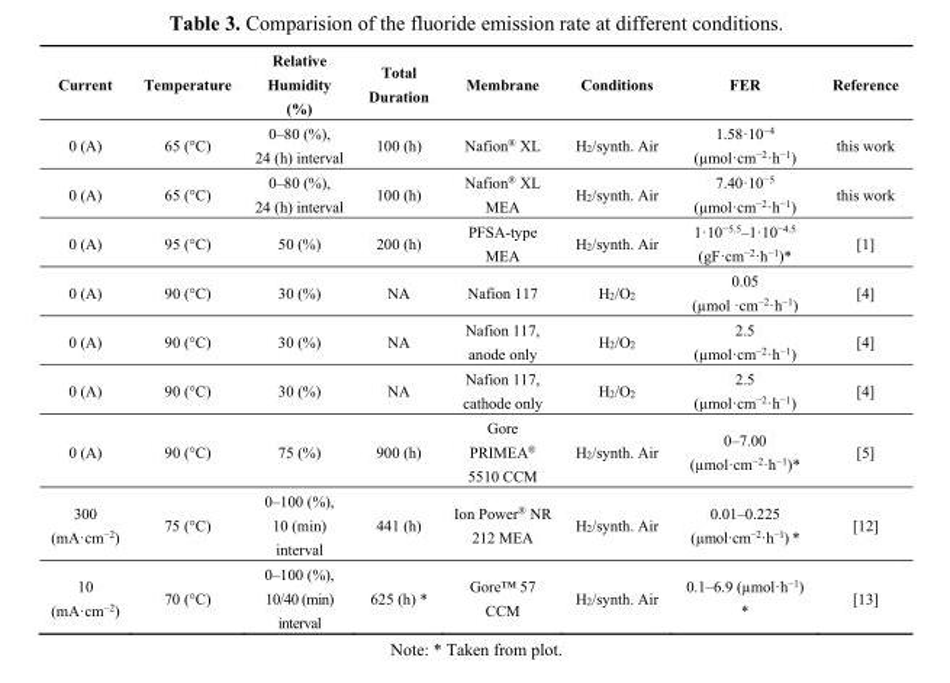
<table><thead><tr><td>Current</td><td>Temperature</td><td>Relative Humidity (%)</td><td>Total Duration</td><td>Membrane</td><td>Conditions</td><td>FER</td><td>Reference</td></tr></thead><tbody><tr><td>0 (A)</td><td>65 (°C)</td><td>0–80 (%), 24 (h) interval</td><td>100 (h)</td><td>Nafion<sup>®</sup> XL</td><td>H<sub>2</sub>/synth. Air</td><td>1.58·10<sup>−4</sup> (µmol·cm<sup>−2</sup>·h<sup>−1</sup>)</td><td>this work</td></tr><tr><td>0 (A)</td><td>65 (°C)</td><td>0–80 (%), 24 (h) interval</td><td>100 (h)</td><td>Nafion<sup>®</sup> XL MEA</td><td>H<sub>2</sub>/synth. Air</td><td>7.40·10<sup>−5</sup> (µmol·cm<sup>−2</sup>·h<sup>−1</sup>)</td><td>this work</td></tr><tr><td>0 (A)</td><td>95 (°C)</td><td>50 (%)</td><td>200 (h)</td><td>PFSA-type MEA</td><td>H<sub>2</sub>/synth. Air</td><td>1·10<sup>−5.5</sup>–1·10<sup>−4.5</sup> (gF·cm<sup>−2</sup>·h<sup>−1</sup>)*</td><td>[1]</td></tr><tr><td>0 (A)</td><td>90 (°C)</td><td>30 (%)</td><td>NA</td><td>Nafion 117</td><td>H<sub>2</sub>/O<sub>2</sub></td><td>0.05 (µmol ·cm<sup>−2</sup>·h<sup>−1</sup>)</td><td>[4]</td></tr><tr><td>0 (A)</td><td>90 (°C)</td><td>30 (%)</td><td>NA</td><td>Nafion 117, anode only</td><td>H<sub>2</sub>/O<sub>2</sub></td><td>2.5 (µmol·cm<sup>−2</sup>·h<sup>−1</sup>)</td><td>[4]</td></tr><tr><td>0 (A)</td><td>90 (°C)</td><td>30 (%)</td><td>NA</td><td>Nafion 117, cathode only</td><td>H<sub>2</sub>/O<sub>2</sub></td><td>2.5 (µmol·cm<sup>−2</sup>·h<sup>−1</sup>)</td><td>[4]</td></tr><tr><td>0 (A)</td><td>90 (°C)</td><td>75 (%)</td><td>900 (h)</td><td>Gore PRIMEA<sup>®</sup> 5510 CCM</td><td>H<sub>2</sub>/synth. Air</td><td>0–7.00 (µmol·cm<sup>−2</sup>·h<sup>−1</sup>)*</td><td>[5]</td></tr><tr><td>300 (mA·cm<sup>−2</sup>)</td><td>75 (°C)</td><td>0–100 (%), 10 (min) interval</td><td>441 (h)</td><td>Ion Power<sup>®</sup> NR 212 MEA</td><td>H<sub>2</sub>/synth. Air</td><td>0.01–0.225 (µmol·cm<sup>−2</sup>·h<sup>−1</sup>) *</td><td>[12]</td></tr><tr><td>10 (mA·cm<sup>−2</sup>)</td><td>70 (°C)</td><td>0–100 (%), 10/40 (min) interval</td><td>625 (h) *</td><td>Gore™ 57 CCM</td><td>H<sub>2</sub>/synth. Air</td><td>0.1–6.9 (µmol·h<sup>−1</sup>) *</td><td>[13]</td></tr></tbody></table>